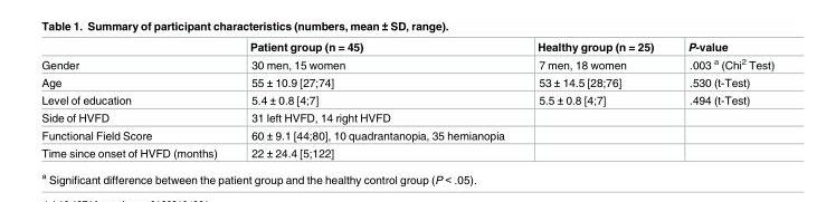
<table><thead><tr><td></td><td>Patient group (n = 45)</td><td>Healthy group (n = 25)</td><td>P-value</td></tr></thead><tbody><tr><td>Gender</td><td>30 men, 15 women</td><td>7 men, 18 women</td><td>.003 <sup>a</sup> (Chi<sup>2</sup> Test)</td></tr><tr><td>Age</td><td>55 ± 10.9 [27;74]</td><td>53 ± 14.5 [28;76]</td><td>.530 (t-Test)</td></tr><tr><td>Level of education</td><td>5.4 ± 0.8 [4;7]</td><td>5.5 ± 0.8 [4;7]</td><td>.494 (t-Test)</td></tr><tr><td>Side of HVFD</td><td>31 left HVFD, 14 right HVFD</td><td></td><td></td></tr><tr><td>Functional Field Score</td><td>60 ± 9.1 [44;80], 10 quadrantanopia, 35 hemianopia</td><td></td><td></td></tr><tr><td>Time since onset of HVFD (months)</td><td>22 ± 24.4 [5;122]</td><td></td><td></td></tr></tbody></table>